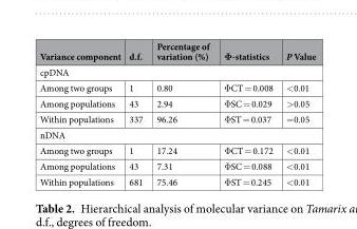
<table><thead><tr><td>Variance component</td><td>d.f.</td><td>Percentage of variation (%)</td><td>Φ-statistics</td><td>P Value</td></tr></thead><tbody><tr><td colspan="5">cpDNA</td></tr><tr><td>Among two groups</td><td>1</td><td>0.80</td><td>ΦCT = 0.008</td><td>&lt;0.01</td></tr><tr><td>Among populations</td><td>43</td><td>2.94</td><td>ΦSC = 0.029</td><td>&gt;0.05</td></tr><tr><td>Within populations</td><td>337</td><td>96.26</td><td>ΦST = 0.037</td><td>=0.05</td></tr><tr><td colspan="5">nDNA</td></tr><tr><td>Among two groups</td><td>1</td><td>17.24</td><td>ΦCT = 0.172</td><td>&lt;0.01</td></tr><tr><td>Among populations</td><td>43</td><td>7.31</td><td>ΦSC = 0.088</td><td>&lt;0.01</td></tr><tr><td>Within populations</td><td>681</td><td>75.46</td><td>ΦST = 0.245</td><td>&lt;0.01</td></tr></tbody></table>